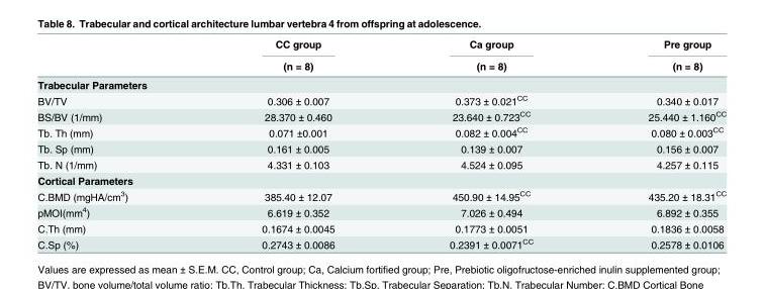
<table><thead><tr><td rowspan="2"></td><td rowspan="2">CC group (n = 8)</td><td rowspan="2">Ca group (n = 8)</td><td rowspan="2">Pre group (n = 8)</td></tr><tr></tr></thead><tbody><tr><td colspan="4">Trabecular Parameters</td></tr><tr><td>BV/TV</td><td>0.306 ± 0.007</td><td>0.373 ± 0.021<sup>CC</sup></td><td>0.340 ± 0.017</td></tr><tr><td>BS/BV (1/mm)</td><td>28.370 ± 0.460</td><td>23.640 ± 0.723<sup>CC</sup></td><td>25.440 ± 1.160<sup>CC</sup></td></tr><tr><td>Tb. Th (mm)</td><td>0.071 ±0.001</td><td>0.082 ± 0.004<sup>CC</sup></td><td>0.080 ± 0.003<sup>CC</sup></td></tr><tr><td>Tb. Sp (mm)</td><td>0.161 ± 0.005</td><td>0.139 ± 0.007</td><td>0.156 ± 0.007</td></tr><tr><td>Tb. N (1/mm)</td><td>4.331 ± 0.103</td><td>4.524 ± 0.095</td><td>4.257 ± 0.115</td></tr><tr><td colspan="4">Cortical Parameters</td></tr><tr><td>C.BMD (mgHA/cm<sup>3</sup>)</td><td>385.40 ± 12.07</td><td>450.90 ± 14.95<sup>CC</sup></td><td>435.20 ± 18.31<sup>CC</sup></td></tr><tr><td>pMOI(mm<sup>4</sup>)</td><td>6.619 ± 0.352</td><td>7.026 ± 0.494</td><td>6.892 ± 0.355</td></tr><tr><td>C.Th (mm)</td><td>0.1674 ± 0.0045</td><td>0.1773 ± 0.0051</td><td>0.1836 ± 0.0058</td></tr><tr><td>C.Sp (%)</td><td>0.2743 ± 0.0086</td><td>0.2391 ± 0.0071<sup>CC</sup></td><td>0.2578 ± 0.0106</td></tr></tbody></table>